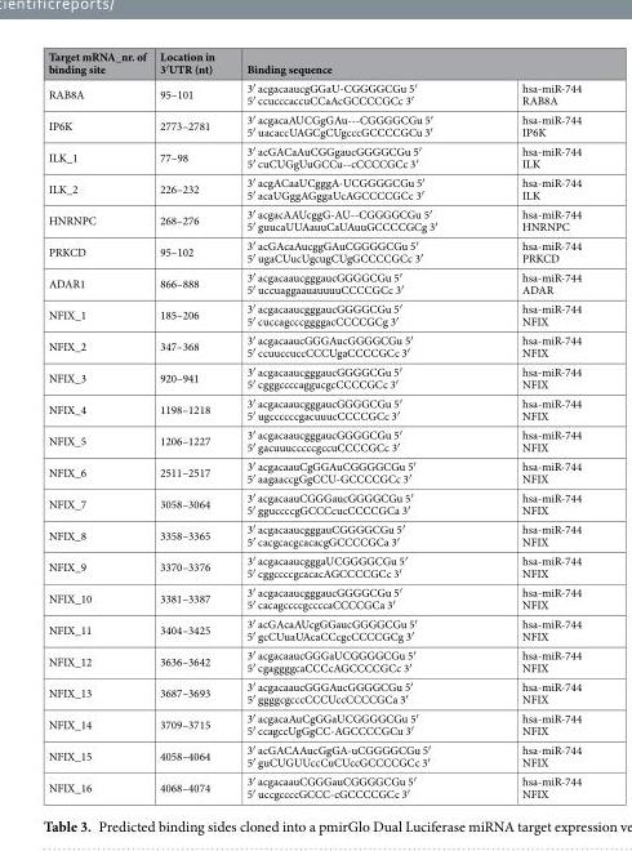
<table><thead><tr><td rowspan="2">Target mRNA_nr. of binding site RAB8A</td><td rowspan="2">Location in 3′UTR (nt) 95–101</td><td colspan="2">Binding sequence</td></tr><tr><td>3′ acgacaaucgGGaU-CGGGGCGu 5′ 5′ ccucccaccuCCaAcGCCCCGCc 3′</td><td>hsa-miR-744 RAB8A</td></tr></thead><tbody><tr><td>IP6K</td><td>2773–2781</td><td>3′ acgacaAUCGgGAu---CGGGGCGu 5′ 5′ uacaccUAGCgCUgcccGCCCCGCu 3′</td><td>hsa-miR-744 IP6K</td></tr><tr><td>ILK_1</td><td>77–98</td><td>3′ acGACaAuCGGgaucGGGGCGu 5′ 5′ cuCUGgUuGCCu--cCCCCGCc 3′</td><td>hsa-miR-744 ILK</td></tr><tr><td>ILK_2</td><td>226–232</td><td>3′ acgACaaUCgggA-UCGGGGCGu 5′ 5′ acaUGggAGggaUcAGCCCCGCc 3′</td><td>hsa-miR-744 ILK</td></tr><tr><td>HNRNPC</td><td>268–276</td><td>3′ acgacAAUcggG-AU--CGGGGCGu 5′ 5′ guucaUUAauuCaUAuuGCCCCGCg 3′</td><td>hsa-miR-744 HNRNPC</td></tr><tr><td>PRKCD</td><td>95–102</td><td>3′ acGAcaAucggGAuCGGGGCGu 5′ 5′ ugaCUucUgcugCUgGCCCCGCc 3′</td><td>hsa-miR-744 PRKCD</td></tr><tr><td>ADAR1</td><td>866–888</td><td>3′ acgacaaucgggaucGGGGCGu 5′ 5′ uccuaggaauauuuuCCCCGCc 3′</td><td>hsa-miR-744 ADAR</td></tr><tr><td>NFIX_1</td><td>185–206</td><td>3′ acgacaaucgggaucGGGGCGu 5′ 5′ cuccagcccggggacCCCCGCg 3′</td><td>hsa-miR-744 NFIX</td></tr><tr><td>NFIX_2</td><td>347–368</td><td>3′ acgacaaucGGGAucGGGGCGu 5′ 5′ ccuuccuccCCCUgaCCCCGCc 3′</td><td>hsa-miR-744 NFIX</td></tr><tr><td>NFIX_3</td><td>920–941</td><td>3′ acgacaaucgggaucGGGGCGu 5′ 5′ cgggccccaggucgcCCCCGCc 3′</td><td>hsa-miR-744 NFIX</td></tr><tr><td>NFIX_4</td><td>1198–1218</td><td>3′ acgacaaucgggaucGGGGCGu 5′ 5′ ugccccccgacuuucCCCCGCc 3′</td><td>hsa-miR-744 NFIX</td></tr><tr><td>NFIX_5</td><td>1206–1227</td><td>3′ acgacaaucgggaucGGGGCGu 5′ 5′ gacuuucccccgccuCCCCGCc 3′</td><td>hsa-miR-744 NFIX</td></tr><tr><td>NFIX_6</td><td>2511–2517</td><td>3′ acgacaauCgGGAuCGGGGCGu 5′ 5′ aagaaccgGgCCU-GCCCCGCc 3′</td><td>hsa-miR-744 NFIX</td></tr><tr><td>NFIX_7</td><td>3058–3064</td><td>3′ acgacaauCGGGaucGGGGCGu 5′ 5′ gguccccgGCCCcucCCCCGCa 3′</td><td>hsa-miR-744 NFIX</td></tr><tr><td>NFIX_8</td><td>3358–3365</td><td>3′ acgacaaucgggauCGGGGCGu 5′ 5′ cacgcacgcacacgGCCCCGCa 3′</td><td>hsa-miR-744 NFIX</td></tr><tr><td>NFIX_9</td><td>3370–3376</td><td>3′ acgacaaucgggaUCGGGGCGu 5′ 5′ cggccccgcacacAGCCCCGCc 3′</td><td>hsa-miR-744 NFIX</td></tr><tr><td>NFIX_10</td><td>3381–3387</td><td>3′ acgacaaucgggaucGGGGCGu 5′ 5′ cacagccccgccccaCCCCGCa 3′</td><td>hsa-miR-744 NFIX</td></tr><tr><td>NFIX_11</td><td>3404–3425</td><td>3′ acGAcaAUcgGGaucGGGGCGu 5′ 5′ gcCUuaUAcaCCcgcCCCCGCg 3′</td><td>hsa-miR-744 NFIX</td></tr><tr><td>NFIX_12</td><td>3636–3642</td><td>3′ acgacaaucGGGaUCGGGGCGu 5′ 5′ cgaggggcaCCCcAGCCCCGCc 3′</td><td>hsa-miR-744 NFIX</td></tr><tr><td>NFIX_13</td><td>3687–3693</td><td>3′ acgacaaucGGGAucGGGGCGu 5′ 5′ ggggcgcccCCCUccCCCCGCa 3′</td><td>hsa-miR-744 NFIX</td></tr><tr><td>NFIX_14</td><td>3709–3715</td><td>3′ acgacaAuCgGGaUCGGGGCGu 5′ 5′ ccagccUgGgCC-AGCCCCGCu 3′</td><td>hsa-miR-744 NFIX</td></tr><tr><td>NFIX_15</td><td>4058–4064</td><td>3′ acGACAAucGgGA-uCGGGGCGu 5′ 5′ guCUGUUccCuCUccGCCCCGCc 3′</td><td>hsa-miR-744 NFIX</td></tr><tr><td>NFIX_16</td><td>4068–4074</td><td>3′ acgacaauCGGGauCGGGGCGu 5′ 5′ uccgccccGCCC-cGCCCCGCc 3′</td><td>hsa-miR-744 NFIX</td></tr></tbody></table>